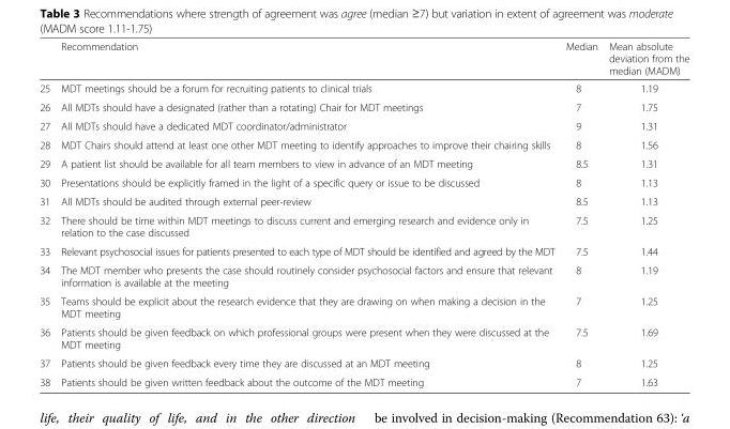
<table><thead><tr><td></td><td>Recommendation</td><td>Median</td><td>Mean absolute deviation from the median (MADM)</td></tr></thead><tbody><tr><td>25</td><td>MDT meetings should be a forum for recruiting patients to clinical trials</td><td>8</td><td>1.19</td></tr><tr><td>26</td><td>All MDTs should have a designated (rather than a rotating) Chair for MDT meetings</td><td>7</td><td>1.75</td></tr><tr><td>27</td><td>All MDTs should have a dedicated MDT coordinator/administrator</td><td>9</td><td>1.31</td></tr><tr><td>28</td><td>MDT Chairs should attend at least one other MDT meeting to identify approaches to improve their chairing skills</td><td>8</td><td>1.56</td></tr><tr><td>29</td><td>A patient list should be available for all team members to view in advance of an MDT meeting</td><td>8.5</td><td>1.31</td></tr><tr><td>30</td><td>Presentations should be explicitly framed in the light of a specific query or issue to be discussed</td><td>8</td><td>1.13</td></tr><tr><td>31</td><td>All MDTs should be audited through external peer-review</td><td>8.5</td><td>1.13</td></tr><tr><td>32</td><td>There should be time within MDT meetings to discuss current and emerging research and evidence only in relation to the case discussed</td><td>7.5</td><td>1.25</td></tr><tr><td>33</td><td>Relevant psychosocial issues for patients presented to each type of MDT should be identified and agreed by the MDT</td><td>7.5</td><td>1.44</td></tr><tr><td>34</td><td>The MDT member who presents the case should routinely consider psychosocial factors and ensure that relevant information is available at the meeting</td><td>8</td><td>1.19</td></tr><tr><td>35</td><td>Teams should be explicit about the research evidence that they are drawing on when making a decision in the MDT meeting</td><td>7</td><td>1.25</td></tr><tr><td>36</td><td>Patients should be given feedback on which professional groups were present when they were discussed at the MDT meeting</td><td>7.5</td><td>1.69</td></tr><tr><td>37</td><td>Patients should be given feedback every time they are discussed at an MDT meeting</td><td>8</td><td>1.25</td></tr><tr><td>38</td><td>Patients should be given written feedback about the outcome of the MDT meeting</td><td>7</td><td>1.63</td></tr></tbody></table>